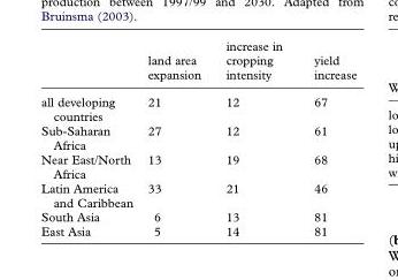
<table><thead><tr><td></td><td>land area expansion</td><td>increase in cropping intensity</td><td>yield increase</td></tr></thead><tbody><tr><td>all developing countries</td><td>21</td><td>12</td><td>67</td></tr><tr><td>Sub-Saharan Africa</td><td>27</td><td>12</td><td>61</td></tr><tr><td>Near East/North Africa</td><td>13</td><td>19</td><td>68</td></tr><tr><td>Latin America and Caribbean</td><td>33</td><td>21</td><td>46</td></tr><tr><td>South Asia</td><td>6</td><td>13</td><td>81</td></tr><tr><td>East Asia</td><td>5</td><td>14</td><td>81</td></tr></tbody></table>